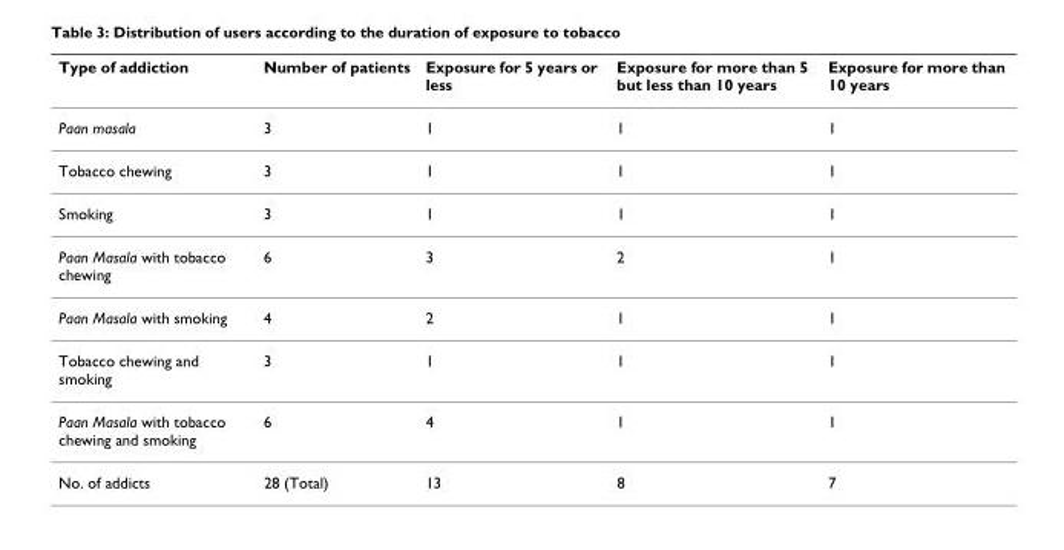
<table><thead><tr><td>Type of addiction</td><td>Number of patients</td><td>Exposure for 5 years or less</td><td>Exposure for more than 5 but less than 10 years</td><td>Exposure for more than 10 years</td></tr></thead><tbody><tr><td>Paan masala</td><td>3</td><td>1</td><td>1</td><td>1</td></tr><tr><td>Tobacco chewing</td><td>3</td><td>1</td><td>1</td><td>1</td></tr><tr><td>Smoking</td><td>3</td><td>1</td><td>1</td><td>1</td></tr><tr><td>Paan Masala with tobacco chewing</td><td>6</td><td>3</td><td>2</td><td>1</td></tr><tr><td>Paan Masala with smoking</td><td>4</td><td>2</td><td>1</td><td>1</td></tr><tr><td>Tobacco chewing and smoking</td><td>3</td><td>1</td><td>1</td><td>1</td></tr><tr><td>Paan Masala with tobacco chewing and smoking</td><td>6</td><td>4</td><td>1</td><td>1</td></tr><tr><td>No. of addicts</td><td>28 (Total)</td><td>13</td><td>8</td><td>7</td></tr></tbody></table>